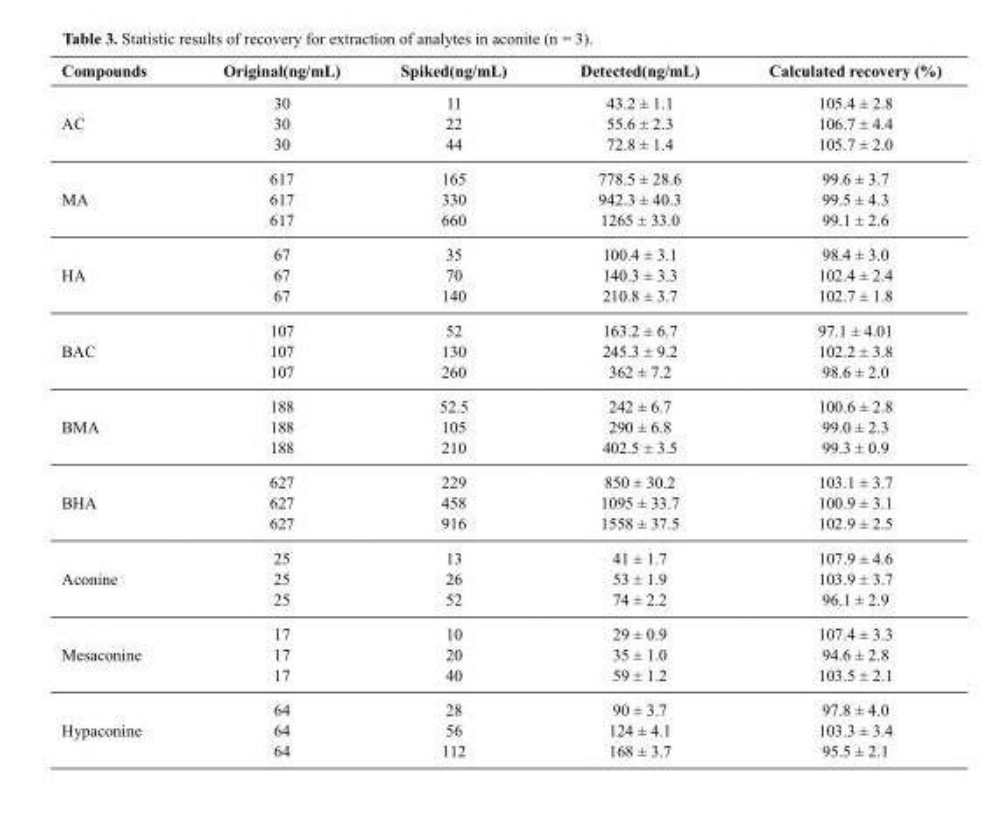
<table><thead><tr><td>Compounds</td><td>Original(ng/mL)</td><td>Spiked(ng/mL)</td><td>Detected(ng/mL)</td><td>Calculated recovery (%)</td></tr></thead><tbody><tr><td>AC</td><td>30 30 30</td><td>11 22 44</td><td>43.2 ± 1.1 55.6 ± 2.3 72.8 ± 1.4</td><td>105.4 ± 2.8 106.7 ± 4.4 105.7 ± 2.0</td></tr><tr><td>MA</td><td>617 617 617</td><td>165 330 660</td><td>778.5 ± 28.6 942.3 ± 40.3 1265 ± 33.0</td><td>99.6 ± 3.7 99.5 ± 4.3 99.1 ± 2.6</td></tr><tr><td>HA</td><td>67 67 67</td><td>35 70 140</td><td>100.4 ± 3.1 140.3 ± 3.3 210.8 ± 3.7</td><td>98.4 ± 3.0 102.4 ± 2.4 102.7 ± 1.8</td></tr><tr><td>BAC</td><td>107 107 107</td><td>52 130 260</td><td>163.2 ± 6.7 245.3 ± 9.2 362 ± 7.2</td><td>97.1 ± 4.01 102.2 ± 3.8 98.6 ± 2.0</td></tr><tr><td>BMA</td><td>188 188 188</td><td>52.5 105 210</td><td>242 ± 6.7 290 ± 6.8 402.5 ± 3.5</td><td>100.6 ± 2.8 99.0 ± 2.3 99.3 ± 0.9</td></tr><tr><td>BHA</td><td>627 627 627</td><td>229 458 916</td><td>850 ± 30.2 1095 ± 33.7 1558 ± 37.5</td><td>103.1 ± 3.7 100.9 ± 3.1 102.9 ± 2.5</td></tr><tr><td>Aconine</td><td>25 25 25</td><td>13 26 52</td><td>41 ± 1.7 53 ± 1.9 74 ± 2.2</td><td>107.9 ± 4.6 103.9 ± 3.7 96.1 ± 2.9</td></tr><tr><td>Mesaconine</td><td>17 17 17</td><td>10 20 40</td><td>29 ± 0.9 35 ± 1.0 59 ± 1.2</td><td>107.4 ± 3.3 94.6 ± 2.8 103.5 ± 2.1</td></tr><tr><td>Hypaconine</td><td>64 64 64</td><td>28 56 112</td><td>90 ± 3.7 124 ± 4.1 168 ± 3.7</td><td>97.8 ± 4.0 103.3 ± 3.4 95.5 ± 2.1</td></tr></tbody></table>